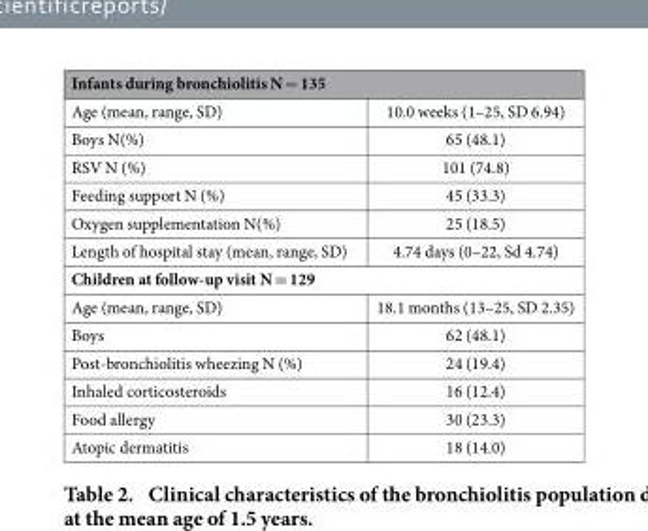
<table><thead><tr><td colspan="2">Infants during bronchiolitis N = 135</td></tr><tr><td>Age (mean, range, SD)</td><td>10.0 weeks (1–25, SD 6.94)</td></tr></thead><tbody><tr><td>Boys N(%)</td><td>65 (48.1)</td></tr><tr><td>RSV N (%)</td><td>101 (74.8)</td></tr><tr><td>Feeding support N (%)</td><td>45 (33.3)</td></tr><tr><td>Oxygen supplementation N(%)</td><td>25 (18.5)</td></tr><tr><td>Length of hospital stay (mean, range, SD)</td><td>4.74 days (0–22, Sd 4.74)</td></tr><tr><td colspan="2">Children at follow-up visit N = 129</td></tr><tr><td>Age (mean, range, SD)</td><td>18.1 months (13–25, SD 2.35)</td></tr><tr><td>Boys</td><td>62 (48.1)</td></tr><tr><td>Post-bronchiolitis wheezing N (%)</td><td>24 (19.4)</td></tr><tr><td>Inhaled corticosteroids</td><td>16 (12.4)</td></tr><tr><td>Food allergy</td><td>30 (23.3)</td></tr><tr><td>Atopic dermatitis</td><td>18 (14.0)</td></tr></tbody></table>